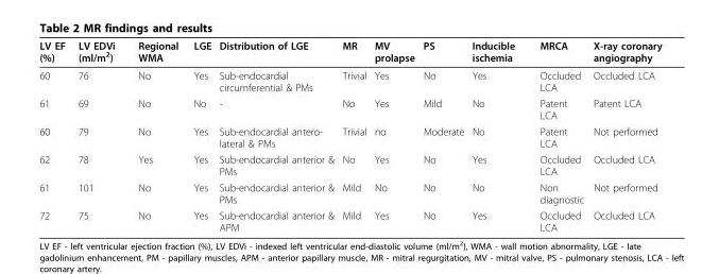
<table><thead><tr><td>LV EF (%)</td><td>LV EDVi (ml/m<sup>2</sup>)</td><td>Regional WMA</td><td>LGE</td><td>Distribution of LGE</td><td>MR</td><td>MV prolapse</td><td>PS</td><td>Inducible ischemia</td><td>MRCA</td><td>X-ray coronary angiography</td></tr></thead><tbody><tr><td>60</td><td>76</td><td>No</td><td>Yes</td><td>Sub-endocardial circumferential &amp; PMs</td><td>Trivial</td><td>Yes</td><td>No</td><td>Yes</td><td>Occluded LCA</td><td>Occluded LCA</td></tr><tr><td>61</td><td>69</td><td>No</td><td>No</td><td>-</td><td>No</td><td>Yes</td><td>Mild</td><td>No</td><td>Patent LCA</td><td>Patent LCA</td></tr><tr><td>60</td><td>79</td><td>No</td><td>Yes</td><td>Sub-endocardial antero- lateral &amp; PMs</td><td>Trivial</td><td>no</td><td>Moderate</td><td>No</td><td>Patent LCA</td><td>Not performed</td></tr><tr><td>62</td><td>78</td><td>Yes</td><td>Yes</td><td>Sub-endocardial anterior &amp; PMs</td><td>No</td><td>Yes</td><td>No</td><td>Yes</td><td>Occluded LCA</td><td>Occluded LCA</td></tr><tr><td>61</td><td>101</td><td>No</td><td>Yes</td><td>Sub-endocardial anterior &amp; PMs</td><td>Mild</td><td>No</td><td>No</td><td>No</td><td>Non diagnostic</td><td>Not performed</td></tr><tr><td>72</td><td>75</td><td>No</td><td>Yes</td><td>Sub-endocardial anterior &amp; APM</td><td>Mild</td><td>Yes</td><td>No</td><td>Yes</td><td>Occluded LCA</td><td>Occluded LCA</td></tr></tbody></table>